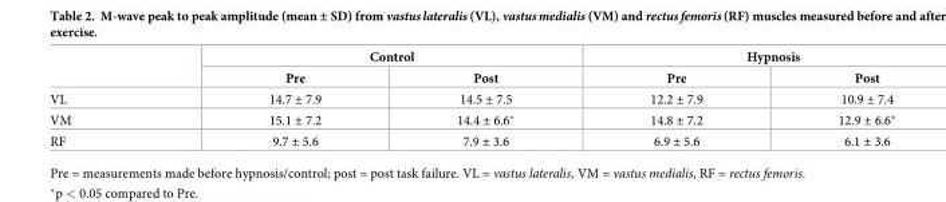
<table><thead><tr><td rowspan="2"></td><td colspan="2">Control</td><td colspan="2">Hypnosis</td></tr><tr><td>Pre</td><td>Post</td><td>Pre</td><td>Post</td></tr></thead><tbody><tr><td>VL</td><td>14.7 ± 7.9</td><td>14.5 ± 7.5</td><td>12.2 ± 7.9</td><td>10.9 ± 7.4</td></tr><tr><td>VM</td><td>15.1 ± 7.2</td><td>14.4 ± 6.6*</td><td>14.8 ± 7.2</td><td>12.9 ± 6.6*</td></tr><tr><td>RF</td><td>9.7 ± 5.6</td><td>7.9 ± 3.6</td><td>6.9 ± 5.6</td><td>6.1 ± 3.6</td></tr></tbody></table>